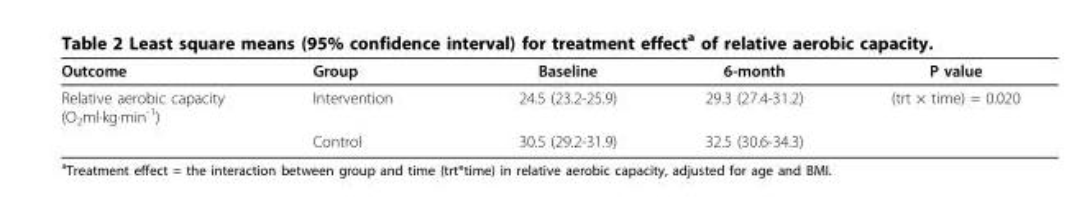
<table><thead><tr><td>Outcome</td><td>Group</td><td>Baseline</td><td>6-month</td><td>P value</td></tr></thead><tbody><tr><td rowspan="2">Relative aerobic capacity (O<sub>2</sub>ml·kg·min<sup>-1</sup>)</td><td>Intervention</td><td>24.5 (23.2-25.9)</td><td>29.3 (27.4-31.2)</td><td>(trt × time) = 0.020</td></tr><tr><td>Control</td><td>30.5 (29.2-31.9)</td><td>32.5 (30.6-34.3)</td><td></td></tr></tbody></table>